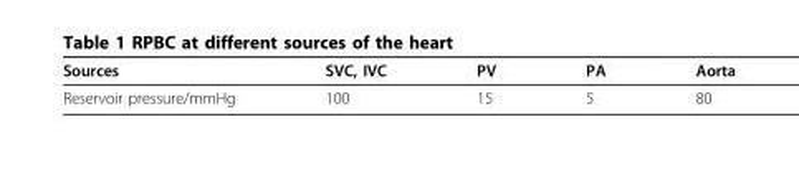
<table><thead><tr><td>Sources</td><td>SVC, IVC</td><td>PV</td><td>PA</td><td>Aorta</td></tr></thead><tbody><tr><td>Reservoir pressure/mmHg</td><td>100</td><td>15</td><td>5</td><td>80</td></tr></tbody></table>